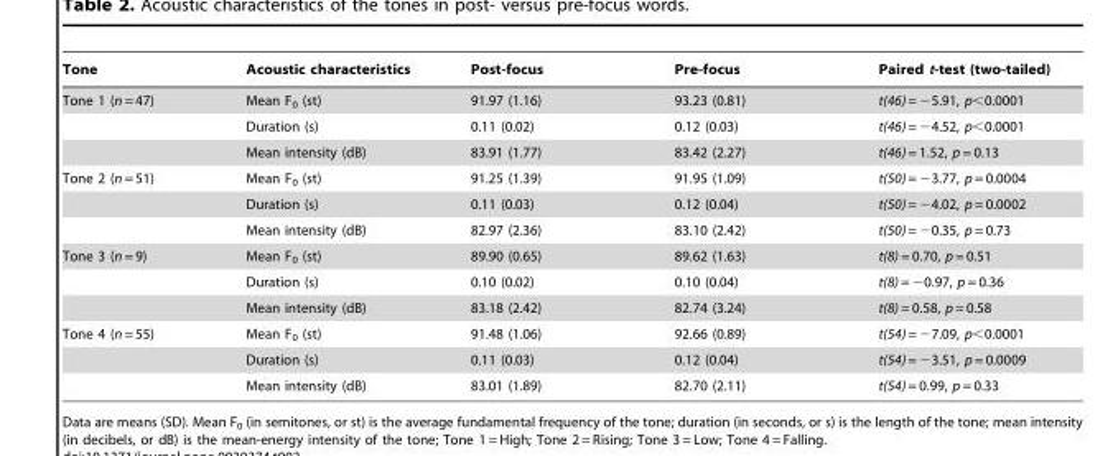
<table><thead><tr><td>Tone</td><td>Acoustic characteristics</td><td>Post-focus</td><td>Pre-focus</td><td>Paired t-test (two-tailed)</td></tr></thead><tbody><tr><td rowspan="3">Tone 1 (n = 47)</td><td>Mean F<sub>0</sub> (st)</td><td>91.97 (1.16)</td><td>93.23 (0.81)</td><td>t(46) = −5.91, p&lt;0.0001</td></tr><tr><td>Duration (s)</td><td>0.11 (0.02)</td><td>0.12 (0.03)</td><td>t(46) = −4.52, p&lt;0.0001</td></tr><tr><td>Mean intensity (dB)</td><td>83.91 (1.77)</td><td>83.42 (2.27)</td><td>t(46) = 1.52, p = 0.13</td></tr><tr><td rowspan="3">Tone 2 (n = 51)</td><td>Mean F<sub>0</sub> (st)</td><td>91.25 (1.39)</td><td>91.95 (1.09)</td><td>t(50) = −3.77, p = 0.0004</td></tr><tr><td>Duration (s)</td><td>0.11 (0.03)</td><td>0.12 (0.04)</td><td>t(50) = −4.02, p = 0.0002</td></tr><tr><td>Mean intensity (dB)</td><td>82.97 (2.36)</td><td>83.10 (2.42)</td><td>t(50) = −0.35, p = 0.73</td></tr><tr><td rowspan="3">Tone 3 (n = 9)</td><td>Mean F<sub>0</sub> (st)</td><td>89.90 (0.65)</td><td>89.62 (1.63)</td><td>t(8) = 0.70, p = 0.51</td></tr><tr><td>Duration (s)</td><td>0.10 (0.02)</td><td>0.10 (0.04)</td><td>t(8) = −0.97, p = 0.36</td></tr><tr><td>Mean intensity (dB)</td><td>83.18 (2.42)</td><td>82.74 (3.24)</td><td>t(8) = 0.58, p = 0.58</td></tr><tr><td rowspan="3">Tone 4 (n = 55)</td><td>Mean F<sub>0</sub> (st)</td><td>91.48 (1.06)</td><td>92.66 (0.89)</td><td>t(54) = −7.09, p&lt;0.0001</td></tr><tr><td>Duration (s)</td><td>0.11 (0.03)</td><td>0.12 (0.04)</td><td>t(54) = −3.51, p = 0.0009</td></tr><tr><td>Mean intensity (dB)</td><td>83.01 (1.89)</td><td>82.70 (2.11)</td><td>t(54) = 0.99, p = 0.33</td></tr></tbody></table>